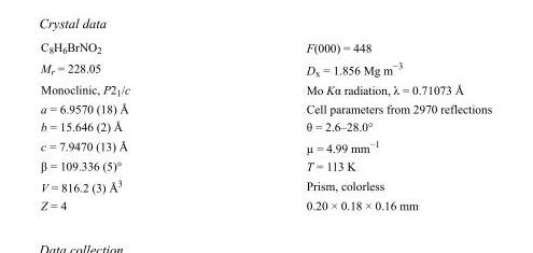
<table><tbody><tr><td>C<sub>8</sub>H<sub>6</sub>BrNO<sub>2</sub></td><td>F(000) = 448</td></tr><tr><td>M<sub>r</sub> = 228.05</td><td>D<sub>x</sub> = 1.856 Mg m<sup>−3</sup></td></tr><tr><td>Monoclinic, P2<sub>1</sub>/c</td><td>Mo Kα radiation, λ = 0.71073 Å</td></tr><tr><td>a = 6.9570 (18) Å</td><td>Cell parameters from 2970 reflections</td></tr><tr><td>b = 15.646 (2) Å</td><td>θ = 2.6–28.0°</td></tr><tr><td>c = 7.9470 (13) Å</td><td>µ = 4.99 mm<sup>−1</sup></td></tr><tr><td>β = 109.336 (5)°</td><td>T = 113 K</td></tr><tr><td>V = 816.2 (3) Å<sup>3</sup></td><td>Prism, colorless</td></tr><tr><td>Z = 4</td><td>0.20 × 0.18 × 0.16 mm</td></tr></tbody></table>